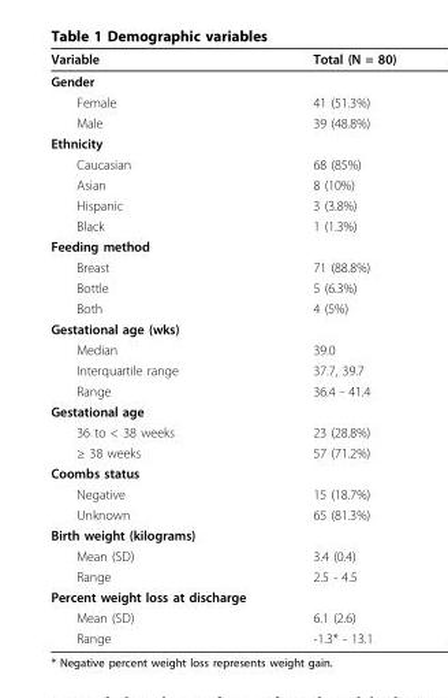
<table><thead><tr><td>Variable</td><td>Total (N = 80)</td></tr></thead><tbody><tr><td colspan="2">Gender</td></tr><tr><td>Female</td><td>41 (51.3%)</td></tr><tr><td>Male</td><td>39 (48.8%)</td></tr><tr><td colspan="2">Ethnicity</td></tr><tr><td>Caucasian</td><td>68 (85%)</td></tr><tr><td>Asian</td><td>8 (10%)</td></tr><tr><td>Hispanic</td><td>3 (3.8%)</td></tr><tr><td>Black</td><td>1 (1.3%)</td></tr><tr><td colspan="2">Feeding method</td></tr><tr><td>Breast</td><td>71 (88.8%)</td></tr><tr><td>Bottle</td><td>5 (6.3%)</td></tr><tr><td>Both</td><td>4 (5%)</td></tr><tr><td colspan="2">Gestational age (wks)</td></tr><tr><td>Median</td><td>39.0</td></tr><tr><td>Interquartile range</td><td>37.7, 39.7</td></tr><tr><td>Range</td><td>36.4 - 41.4</td></tr><tr><td colspan="2">Gestational age</td></tr><tr><td>36 to &lt; 38 weeks</td><td>23 (28.8%)</td></tr><tr><td>≥ 38 weeks</td><td>57 (71.2%)</td></tr><tr><td colspan="2">Coombs status</td></tr><tr><td>Negative</td><td>15 (18.7%)</td></tr><tr><td>Unknown</td><td>65 (81.3%)</td></tr><tr><td colspan="2">Birth weight (kilograms)</td></tr><tr><td>Mean (SD)</td><td>3.4 (0.4)</td></tr><tr><td>Range</td><td>2.5 - 4.5</td></tr><tr><td colspan="2">Percent weight loss at discharge</td></tr><tr><td>Mean (SD)</td><td>6.1 (2.6)</td></tr><tr><td>Range</td><td>-1.3* - 13.1</td></tr></tbody></table>